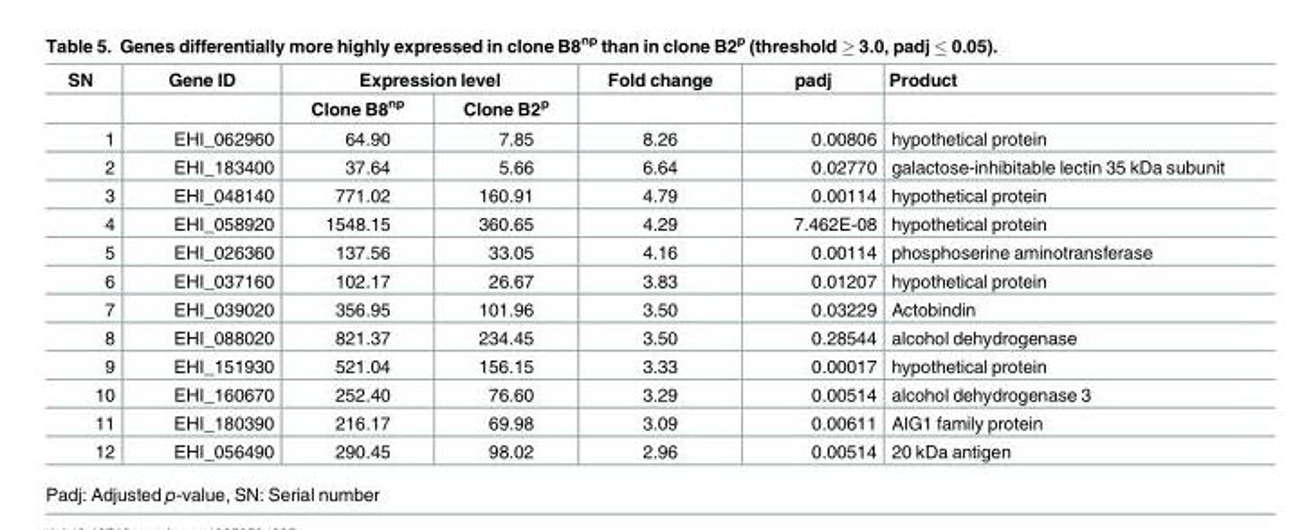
<table><thead><tr><td rowspan="2">SN</td><td rowspan="2">Gene ID</td><td colspan="2">Expression level</td><td rowspan="2">Fold change</td><td rowspan="2">padj</td><td rowspan="2">Product</td></tr><tr><td>Clone B8<sup>np</sup></td><td>Clone B2<sup>p</sup></td></tr></thead><tbody><tr><td>1</td><td>EHI_062960</td><td>64.90</td><td>7.85</td><td>8.26</td><td>0.00806</td><td>hypothetical protein</td></tr><tr><td>2</td><td>EHI_183400</td><td>37.64</td><td>5.66</td><td>6.64</td><td>0.02770</td><td>galactose-inhibitable lectin 35 kDa subunit</td></tr><tr><td>3</td><td>EHI_048140</td><td>771.02</td><td>160.91</td><td>4.79</td><td>0.00114</td><td>hypothetical protein</td></tr><tr><td>4</td><td>EHI_058920</td><td>1548.15</td><td>360.65</td><td>4.29</td><td>7.462E-08</td><td>hypothetical protein</td></tr><tr><td>5</td><td>EHI_026360</td><td>137.56</td><td>33.05</td><td>4.16</td><td>0.00114</td><td>phosphoserine aminotransferase</td></tr><tr><td>6</td><td>EHI_037160</td><td>102.17</td><td>26.67</td><td>3.83</td><td>0.01207</td><td>hypothetical protein</td></tr><tr><td>7</td><td>EHI_039020</td><td>356.95</td><td>101.96</td><td>3.50</td><td>0.03229</td><td>Actobindin</td></tr><tr><td>8</td><td>EHI_088020</td><td>821.37</td><td>234.45</td><td>3.50</td><td>0.28544</td><td>alcohol dehydrogenase</td></tr><tr><td>9</td><td>EHI_151930</td><td>521.04</td><td>156.15</td><td>3.33</td><td>0.00017</td><td>hypothetical protein</td></tr><tr><td>10</td><td>EHI_160670</td><td>252.40</td><td>76.60</td><td>3.29</td><td>0.00514</td><td>alcohol dehydrogenase 3</td></tr><tr><td>11</td><td>EHI_180390</td><td>216.17</td><td>69.98</td><td>3.09</td><td>0.00611</td><td>AIG1 family protein</td></tr><tr><td>12</td><td>EHI_056490</td><td>290.45</td><td>98.02</td><td>2.96</td><td>0.00514</td><td>20 kDa antigen</td></tr></tbody></table>